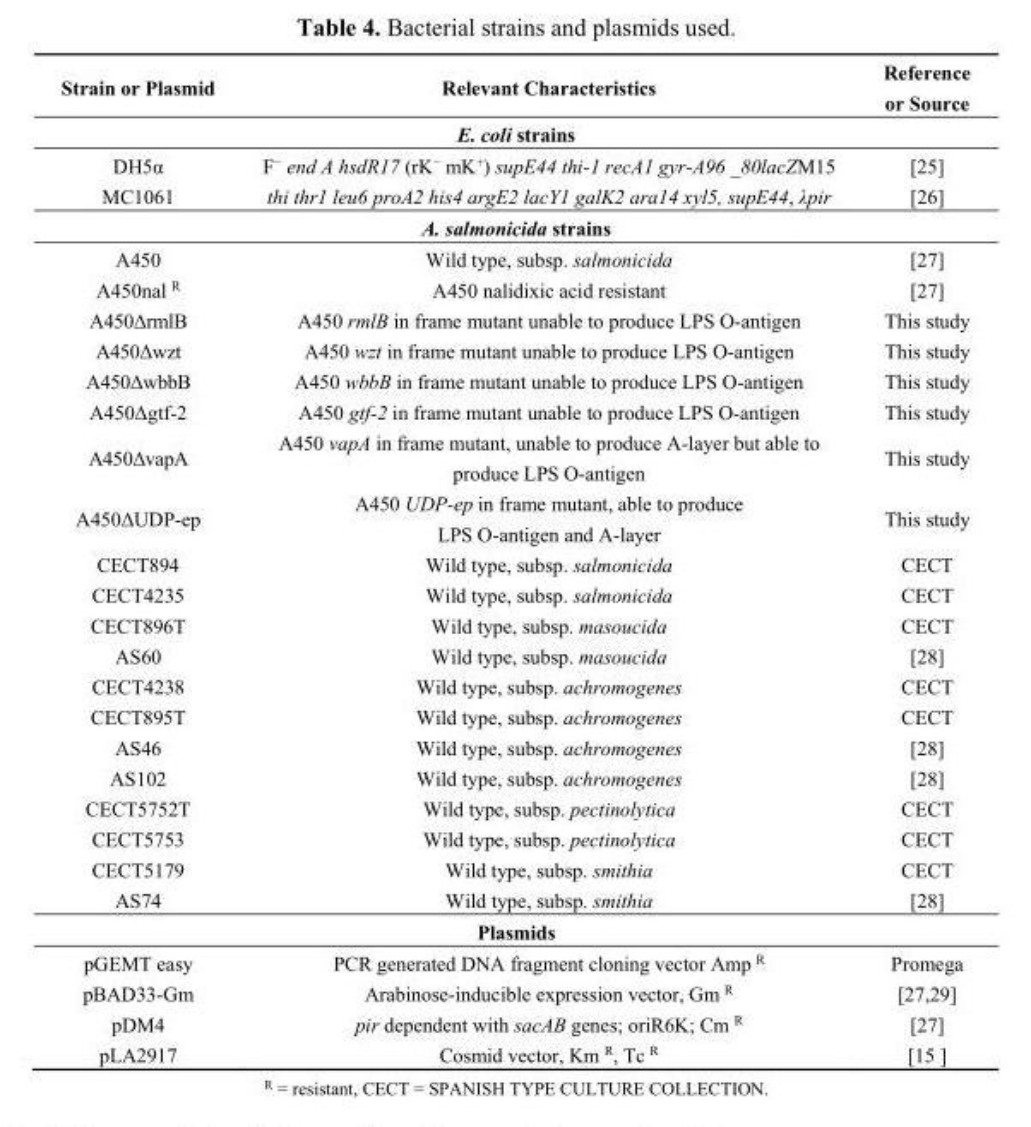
<table><thead><tr><td>Strain or Plasmid</td><td>Relevant Characteristics</td><td>Reference or Source</td></tr></thead><tbody><tr><td colspan="3">E. coli strains</td></tr><tr><td>DH5α</td><td>F<sup>−</sup> end A hsdR17 (rK<sup>−</sup> mK<sup>+</sup>) supE44 thi-1 recA1 gyr-A96 _80lacZM15</td><td>[25]</td></tr><tr><td>MC1061</td><td>thi thr1 leu6 proA2 his4 argE2 lacY1 galK2 ara14 xyl5, supE44, λpir</td><td>[26]</td></tr><tr><td colspan="3">A. salmonicida strains</td></tr><tr><td>A450</td><td>Wild type, subsp. salmonicida</td><td>[27]</td></tr><tr><td>A450nal <sup>R</sup></td><td>A450 nalidixic acid resistant</td><td>[27]</td></tr><tr><td>A450ΔrmlB</td><td>A450 rmlB in frame mutant unable to produce LPS O-antigen</td><td>This study</td></tr><tr><td>A450Δwzt</td><td>A450 wzt in frame mutant unable to produce LPS O-antigen</td><td>This study</td></tr><tr><td>A450ΔwbbB</td><td>A450 wbbB in frame mutant unable to produce LPS O-antigen</td><td>This study</td></tr><tr><td>A450Δgtf-2</td><td>A450 gtf-2 in frame mutant unable to produce LPS O-antigen</td><td>This study</td></tr><tr><td>A450ΔvapA</td><td>A450 vapA in frame mutant, unable to produce A-layer but able to produce LPS O-antigen</td><td>This study</td></tr><tr><td>A450ΔUDP-ep</td><td>A450 UDP-ep in frame mutant, able to produce LPS O-antigen and A-layer</td><td>This study</td></tr><tr><td>CECT894</td><td>Wild type, subsp. salmonicida</td><td>CECT</td></tr><tr><td>CECT4235</td><td>Wild type, subsp. salmonicida</td><td>CECT</td></tr><tr><td>CECT896T</td><td>Wild type, subsp. masoucida</td><td>CECT</td></tr><tr><td>AS60</td><td>Wild type, subsp. masoucida</td><td>[28]</td></tr><tr><td>CECT4238</td><td>Wild type, subsp. achromogenes</td><td>CECT</td></tr><tr><td>CECT895T</td><td>Wild type, subsp. achromogenes</td><td>CECT</td></tr><tr><td>AS46</td><td>Wild type, subsp. achromogenes</td><td>[28]</td></tr><tr><td>AS102</td><td>Wild type, subsp. achromogenes</td><td>[28]</td></tr><tr><td>CECT5752T</td><td>Wild type, subsp. pectinolytica</td><td>CECT</td></tr><tr><td>CECT5753</td><td>Wild type, subsp. pectinolytica</td><td>CECT</td></tr><tr><td>CECT5179</td><td>Wild type, subsp. smithia</td><td>CECT</td></tr><tr><td>AS74</td><td>Wild type, subsp. smithia</td><td>[28]</td></tr><tr><td colspan="3">Plasmids</td></tr><tr><td>pGEMT easy</td><td>PCR generated DNA fragment cloning vector Amp <sup>R</sup></td><td>Promega</td></tr><tr><td>pBAD33-Gm</td><td>Arabinose-inducible expression vector, Gm <sup>R</sup></td><td>[27,29]</td></tr><tr><td>pDM4</td><td>pir dependent with sacAB genes; oriR6K; Cm <sup>R</sup></td><td>[27]</td></tr><tr><td>pLA2917</td><td>Cosmid vector, Km <sup>R</sup>, Tc <sup>R</sup></td><td>[15 ]</td></tr></tbody></table>